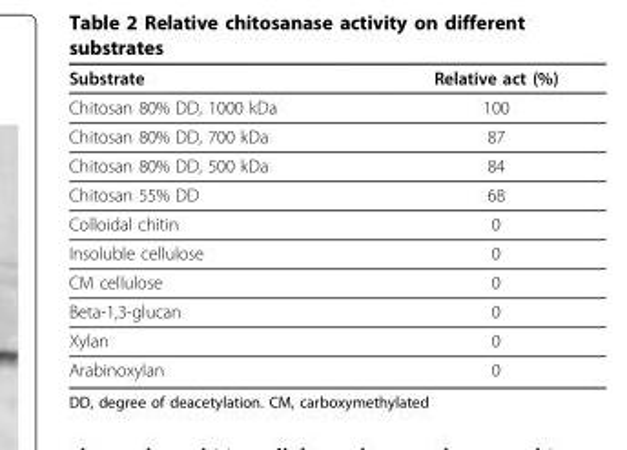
<table><thead><tr><td>Substrate</td><td>Relative act (%)</td></tr></thead><tbody><tr><td>Chitosan 80% DD, 1000 kDa</td><td>100</td></tr><tr><td>Chitosan 80% DD, 700 kDa</td><td>87</td></tr><tr><td>Chitosan 80% DD, 500 kDa</td><td>84</td></tr><tr><td>Chitosan 55% DD</td><td>68</td></tr><tr><td>Colloidal chitin</td><td>0</td></tr><tr><td>Insoluble cellulose</td><td>0</td></tr><tr><td>CM cellulose</td><td>0</td></tr><tr><td>Beta-1,3-glucan</td><td>0</td></tr><tr><td>Xylan</td><td>0</td></tr><tr><td>Arabinoxylan</td><td>0</td></tr></tbody></table>